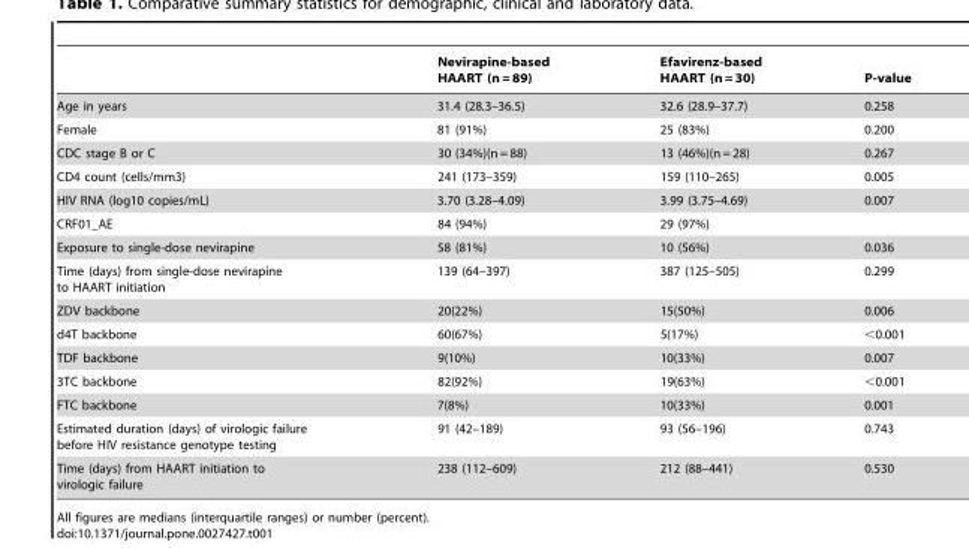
<table><thead><tr><td></td><td>Nevirapine-based HAART (n = 89)</td><td>Efavirenz-based HAART (n = 30)</td><td>P-value</td></tr></thead><tbody><tr><td>Age in years</td><td>31.4 (28.3–36.5)</td><td>32.6 (28.9–37.7)</td><td>0.258</td></tr><tr><td>Female</td><td>81 (91%)</td><td>25 (83%)</td><td>0.200</td></tr><tr><td>CDC stage B or C</td><td>30 (34%)(n = 88)</td><td>13 (46%)(n = 28)</td><td>0.267</td></tr><tr><td>CD4 count (cells/mm3)</td><td>241 (173–359)</td><td>159 (110–265)</td><td>0.005</td></tr><tr><td>HIV RNA (log10 copies/mL)</td><td>3.70 (3.28–4.09)</td><td>3.99 (3.75–4.69)</td><td>0.007</td></tr><tr><td>CRF01_AE</td><td>84 (94%)</td><td>29 (97%)</td><td></td></tr><tr><td>Exposure to single-dose nevirapine</td><td>58 (81%)</td><td>10 (56%)</td><td>0.036</td></tr><tr><td>Time (days) from single-dose nevirapine to HAART initiation</td><td>139 (64–397)</td><td>387 (125–505)</td><td>0.299</td></tr><tr><td>ZDV backbone</td><td>20(22%)</td><td>15(50%)</td><td>0.006</td></tr><tr><td>d4T backbone</td><td>60(67%)</td><td>5(17%)</td><td>&lt;0.001</td></tr><tr><td>TDF backbone</td><td>9(10%)</td><td>10(33%)</td><td>0.007</td></tr><tr><td>3TC backbone</td><td>82(92%)</td><td>19(63%)</td><td>&lt;0.001</td></tr><tr><td>FTC backbone</td><td>7(8%)</td><td>10(33%)</td><td>0.001</td></tr><tr><td>Estimated duration (days) of virologic failure before HIV resistance genotype testing</td><td>91 (42–189)</td><td>93 (56–196)</td><td>0.743</td></tr><tr><td>Time (days) from HAART initiation to virologic failure</td><td>238 (112–609)</td><td>212 (88–441)</td><td>0.530</td></tr></tbody></table>